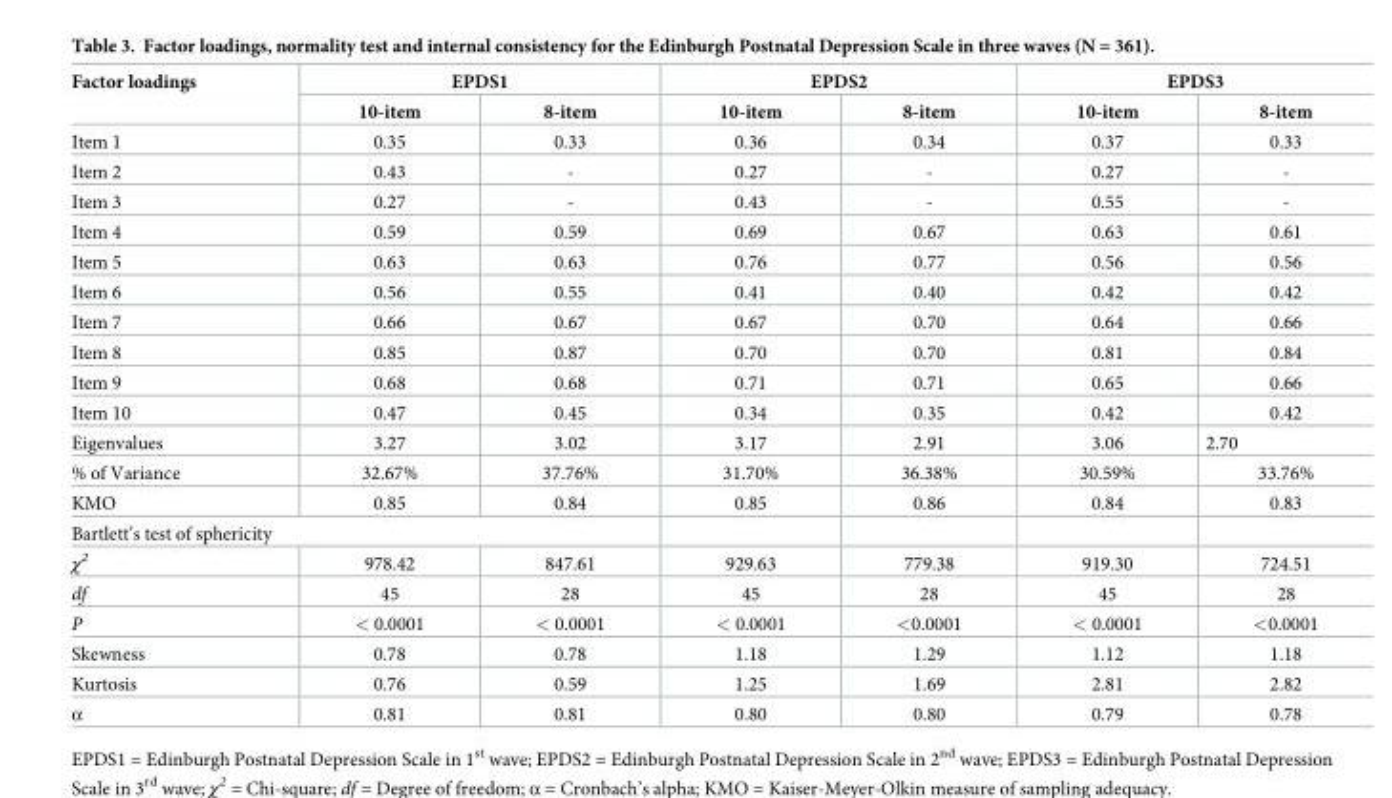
<table><thead><tr><td rowspan="2">Factor loadings</td><td colspan="2">EPDS1</td><td colspan="2">EPDS2</td><td colspan="2">EPDS3</td></tr><tr><td>10-item</td><td>8-item</td><td>10-item</td><td>8-item</td><td>10-item</td><td>8-item</td></tr></thead><tbody><tr><td>Item 1</td><td>0.35</td><td>0.33</td><td>0.36</td><td>0.34</td><td>0.37</td><td>0.33</td></tr><tr><td>Item 2</td><td>0.43</td><td>-</td><td>0.27</td><td>-</td><td>0.27</td><td>-</td></tr><tr><td>Item 3</td><td>0.27</td><td>-</td><td>0.43</td><td>-</td><td>0.55</td><td>-</td></tr><tr><td>Item 4</td><td>0.59</td><td>0.59</td><td>0.69</td><td>0.67</td><td>0.63</td><td>0.61</td></tr><tr><td>Item 5</td><td>0.63</td><td>0.63</td><td>0.76</td><td>0.77</td><td>0.56</td><td>0.56</td></tr><tr><td>Item 6</td><td>0.56</td><td>0.55</td><td>0.41</td><td>0.40</td><td>0.42</td><td>0.42</td></tr><tr><td>Item 7</td><td>0.66</td><td>0.67</td><td>0.67</td><td>0.70</td><td>0.64</td><td>0.66</td></tr><tr><td>Item 8</td><td>0.85</td><td>0.87</td><td>0.70</td><td>0.70</td><td>0.81</td><td>0.84</td></tr><tr><td>Item 9</td><td>0.68</td><td>0.68</td><td>0.71</td><td>0.71</td><td>0.65</td><td>0.66</td></tr><tr><td>Item 10</td><td>0.47</td><td>0.45</td><td>0.34</td><td>0.35</td><td>0.42</td><td>0.42</td></tr><tr><td>Eigenvalues</td><td>3.27</td><td>3.02</td><td>3.17</td><td>2.91</td><td>3.06</td><td>2.70</td></tr><tr><td>% of Variance</td><td>32.67%</td><td>37.76%</td><td>31.70%</td><td>36.38%</td><td>30.59%</td><td>33.76%</td></tr><tr><td>KMO</td><td>0.85</td><td>0.84</td><td>0.85</td><td>0.86</td><td>0.84</td><td>0.83</td></tr><tr><td colspan="7">Bartlett’s test of sphericity</td></tr><tr><td>χ<sup>2</sup></td><td>978.42</td><td>847.61</td><td>929.63</td><td>779.38</td><td>919.30</td><td>724.51</td></tr><tr><td>df</td><td>45</td><td>28</td><td>45</td><td>28</td><td>45</td><td>28</td></tr><tr><td>P</td><td>&lt; 0.0001</td><td>&lt; 0.0001</td><td>&lt; 0.0001</td><td>&lt;0.0001</td><td>&lt; 0.0001</td><td>&lt;0.0001</td></tr><tr><td>Skewness</td><td>0.78</td><td>0.78</td><td>1.18</td><td>1.29</td><td>1.12</td><td>1.18</td></tr><tr><td>Kurtosis</td><td>0.76</td><td>0.59</td><td>1.25</td><td>1.69</td><td>2.81</td><td>2.82</td></tr><tr><td>α</td><td>0.81</td><td>0.81</td><td>0.80</td><td>0.80</td><td>0.79</td><td>0.78</td></tr></tbody></table>